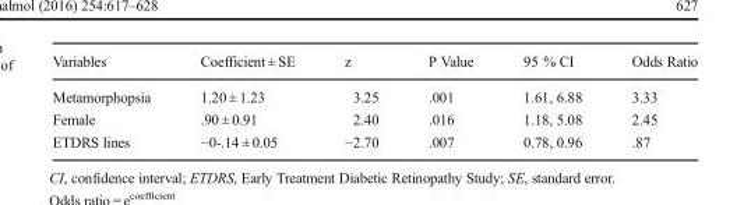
<table><thead><tr><td>Variables</td><td>Coefficient ± SE</td><td>z</td><td>P Value</td><td>95 % CI</td><td>Odds Ratio</td></tr></thead><tbody><tr><td>Metamorphopsia</td><td>1.20 ± 1.23</td><td>3.25</td><td>.001</td><td>1.61, 6.88</td><td>3.33</td></tr><tr><td>Female</td><td>.90 ± 0.91</td><td>2.40</td><td>.016</td><td>1.18, 5.08</td><td>2.45</td></tr><tr><td>ETDRS lines</td><td>−0-.14 ± 0.05</td><td>−2.70</td><td>.007</td><td>0.78, 0.96</td><td>.87</td></tr></tbody></table>